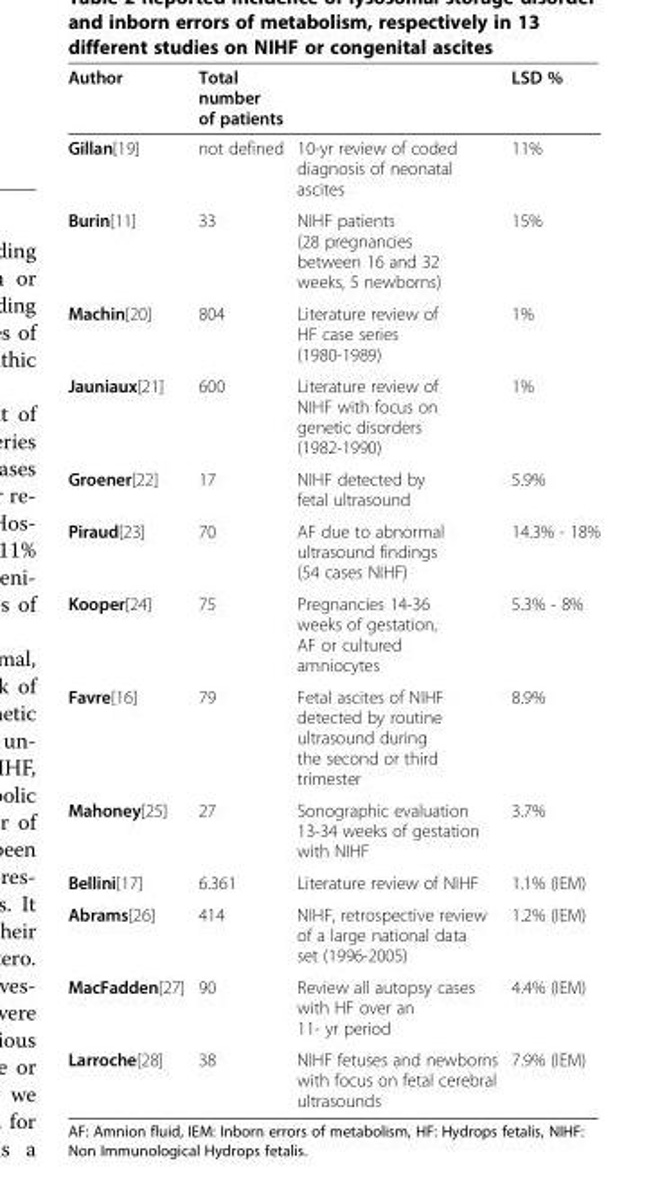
<table><thead><tr><td>Author</td><td>Total number of patients</td><td></td><td>LSD %</td></tr></thead><tbody><tr><td>Gillan[19]</td><td>not defined</td><td>10-yr review of coded diagnosis of neonatal ascites</td><td>11%</td></tr><tr><td>Burin[11]</td><td>33</td><td>NIHF patients (28 pregnancies between 16 and 32 weeks, 5 newborns)</td><td>15%</td></tr><tr><td>Machin[20]</td><td>804</td><td>Literature review of HF case series (1980-1989)</td><td>1%</td></tr><tr><td>Jauniaux[21]</td><td>600</td><td>Literature review of NIHF with focus on genetic disorders (1982-1990)</td><td>1%</td></tr><tr><td>Groener[22]</td><td>17</td><td>NIHF detected by fetal ultrasound</td><td>5.9%</td></tr><tr><td>Piraud[23]</td><td>70</td><td>AF due to abnormal ultrasound findings (54 cases NIHF)</td><td>14.3% - 18%</td></tr><tr><td>Kooper[24]</td><td>75</td><td>Pregnancies 14-36 weeks of gestation, AF or cultured amniocytes</td><td>5.3% - 8%</td></tr><tr><td>Favre[16]</td><td>79</td><td>Fetal ascites of NIHF detected by routine ultrasound during the second or third trimester</td><td>8.9%</td></tr><tr><td>Mahoney[25]</td><td>27</td><td>Sonographic evaluation 13-34 weeks of gestation with NIHF</td><td>3.7%</td></tr><tr><td>Bellini[17]</td><td>6.361</td><td>Literature review of NIHF</td><td>1.1% (IEM)</td></tr><tr><td>Abrams[26]</td><td>414</td><td>NIHF, retrospective review of a large national data set (1996-2005)</td><td>1.2% (IEM)</td></tr><tr><td>MacFadden[27]</td><td>90</td><td>Review all autopsy cases with HF over an 11- yr period</td><td>4.4% (IEM)</td></tr><tr><td>Larroche[28]</td><td>38</td><td>NIHF fetuses and newborns with focus on fetal cerebral ultrasounds</td><td>7.9% (IEM)</td></tr></tbody></table>